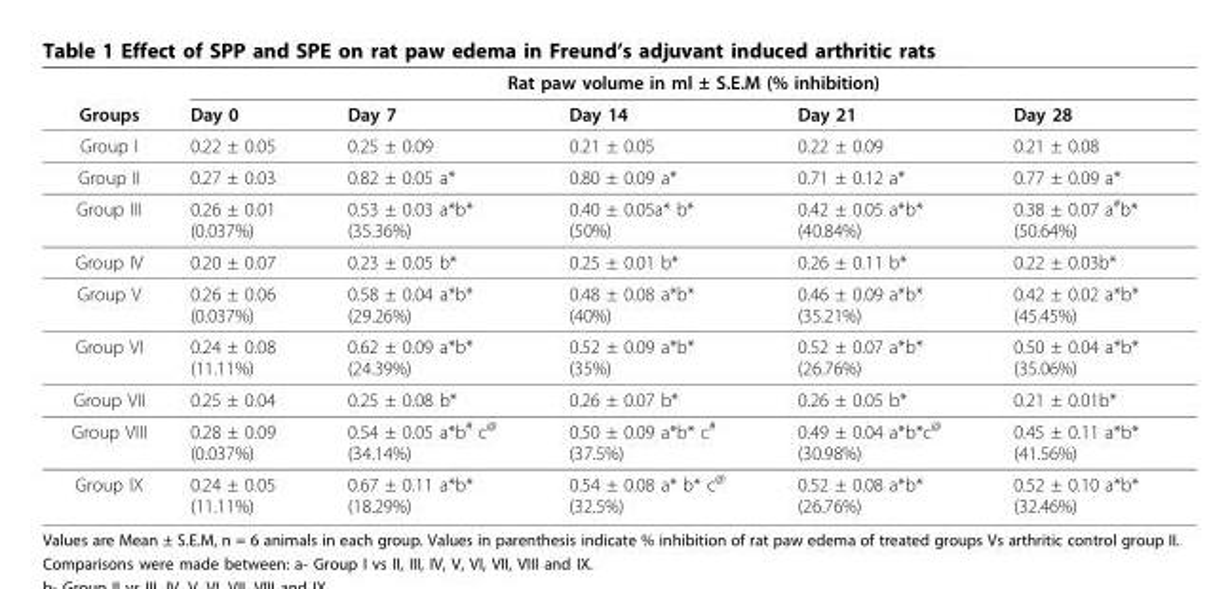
<table><thead><tr><td rowspan="2">Groups</td><td colspan="5">Rat paw volume in ml ± S.E.M (% inhibition)</td></tr><tr><td>Day 0</td><td>Day 7</td><td>Day 14</td><td>Day 21</td><td>Day 28</td></tr></thead><tbody><tr><td>Group I</td><td>0.22 ± 0.05</td><td>0.25 ± 0.09</td><td>0.21 ± 0.05</td><td>0.22 ± 0.09</td><td>0.21 ± 0.08</td></tr><tr><td>Group II</td><td>0.27 ± 0.03</td><td>0.82 ± 0.05 a*</td><td>0.80 ± 0.09 a*</td><td>0.71 ± 0.12 a*</td><td>0.77 ± 0.09 a*</td></tr><tr><td>Group III</td><td>0.26 ± 0.01 (0.037%)</td><td>0.53 ± 0.03 a*b* (35.36%)</td><td>0.40 ± 0.05a* b* (50%)</td><td>0.42 ± 0.05 a*b* (40.84%)</td><td>0.38 ± 0.07 a<sup>#</sup>b* (50.64%)</td></tr><tr><td>Group IV</td><td>0.20 ± 0.07</td><td>0.23 ± 0.05 b*</td><td>0.25 ± 0.01 b*</td><td>0.26 ± 0.11 b*</td><td>0.22 ± 0.03b*</td></tr><tr><td>Group V</td><td>0.26 ± 0.06 (0.037%)</td><td>0.58 ± 0.04 a*b* (29.26%)</td><td>0.48 ± 0.08 a*b* (40%)</td><td>0.46 ± 0.09 a*b* (35.21%)</td><td>0.42 ± 0.02 a*b* (45.45%)</td></tr><tr><td>Group VI</td><td>0.24 ± 0.08 (11.11%)</td><td>0.62 ± 0.09 a*b* (24.39%)</td><td>0.52 ± 0.09 a*b* (35%)</td><td>0.52 ± 0.07 a*b* (26.76%)</td><td>0.50 ± 0.04 a*b* (35.06%)</td></tr><tr><td>Group VII</td><td>0.25 ± 0.04</td><td>0.25 ± 0.08 b*</td><td>0.26 ± 0.07 b*</td><td>0.26 ± 0.05 b*</td><td>0.21 ± 0.01b*</td></tr><tr><td>Group VIII</td><td>0.28 ± 0.09 (0.037%)</td><td>0.54 ± 0.05 a*b<sup>#</sup> c<sup>@</sup> (34.14%)</td><td>0.50 ± 0.09 a*b* c<sup>#</sup> (37.5%)</td><td>0.49 ± 0.04 a*b*c<sup>@</sup> (30.98%)</td><td>0.45 ± 0.11 a*b* (41.56%)</td></tr><tr><td>Group IX</td><td>0.24 ± 0.05 (11.11%)</td><td>0.67 ± 0.11 a*b* (18.29%)</td><td>0.54 ± 0.08 a* b* c<sup>@</sup> (32.5%)</td><td>0.52 ± 0.08 a*b* (26.76%)</td><td>0.52 ± 0.10 a*b* (32.46%)</td></tr></tbody></table>